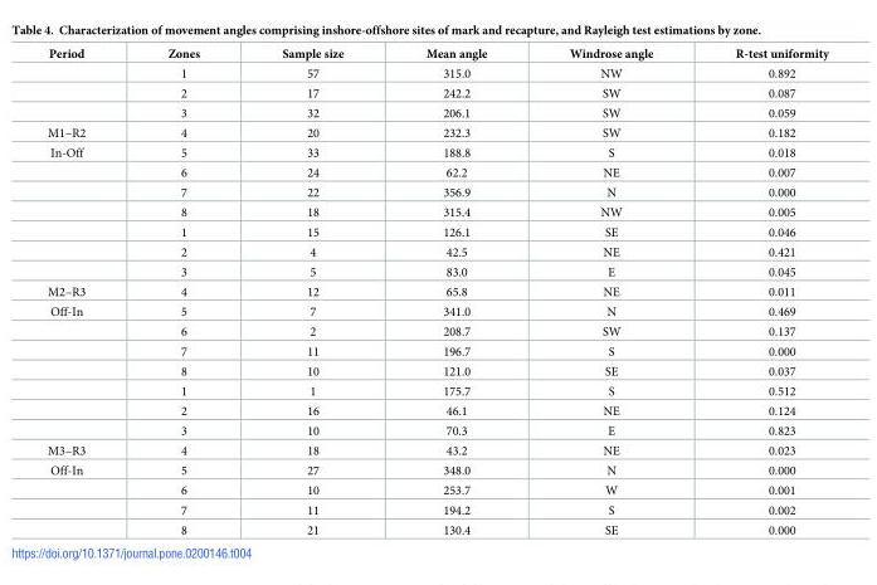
<table><thead><tr><td>Period</td><td>Zones</td><td>Sample size</td><td>Mean angle</td><td>Windrose angle</td><td>R-test uniformity</td></tr></thead><tbody><tr><td></td><td>1</td><td>57</td><td>315.0</td><td>NW</td><td>0.892</td></tr><tr><td></td><td>2</td><td>17</td><td>242.2</td><td>SW</td><td>0.087</td></tr><tr><td></td><td>3</td><td>32</td><td>206.1</td><td>SW</td><td>0.059</td></tr><tr><td>M1–R2</td><td>4</td><td>20</td><td>232.3</td><td>SW</td><td>0.182</td></tr><tr><td rowspan="7">In-Off</td><td>5</td><td>33</td><td>188.8</td><td>S</td><td>0.018</td></tr><tr><td>6</td><td>24</td><td>62.2</td><td>NE</td><td>0.007</td></tr><tr><td>7</td><td>22</td><td>356.9</td><td>N</td><td>0.000</td></tr><tr><td>8</td><td>18</td><td>315.4</td><td>NW</td><td>0.005</td></tr><tr><td>1</td><td>15</td><td>126.1</td><td>SE</td><td>0.046</td></tr><tr><td>2</td><td>4</td><td>42.5</td><td>NE</td><td>0.421</td></tr><tr><td>3</td><td>5</td><td>83.0</td><td>E</td><td>0.045</td></tr><tr><td>M2–R3</td><td>4</td><td>12</td><td>65.8</td><td>NE</td><td>0.011</td></tr><tr><td rowspan="7">Off-In</td><td>5</td><td>7</td><td>341.0</td><td>N</td><td>0.469</td></tr><tr><td>6</td><td>2</td><td>208.7</td><td>SW</td><td>0.137</td></tr><tr><td>7</td><td>11</td><td>196.7</td><td>S</td><td>0.000</td></tr><tr><td>8</td><td>10</td><td>121.0</td><td>SE</td><td>0.037</td></tr><tr><td>1</td><td>1</td><td>175.7</td><td>S</td><td>0.512</td></tr><tr><td>2</td><td>16</td><td>46.1</td><td>NE</td><td>0.124</td></tr><tr><td>3</td><td>10</td><td>70.3</td><td>E</td><td>0.823</td></tr><tr><td>M3–R3</td><td>4</td><td>18</td><td>43.2</td><td>NE</td><td>0.023</td></tr><tr><td rowspan="4">Off-In</td><td>5</td><td>27</td><td>348.0</td><td>N</td><td>0.000</td></tr><tr><td>6</td><td>10</td><td>253.7</td><td>W</td><td>0.001</td></tr><tr><td>7</td><td>11</td><td>194.2</td><td>S</td><td>0.002</td></tr><tr><td>8</td><td>21</td><td>130.4</td><td>SE</td><td>0.000</td></tr></tbody></table>